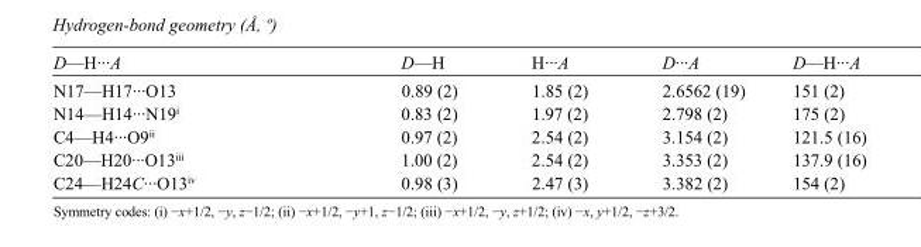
<table><tbody><tr><td>D—H···A</td><td>D—H</td><td>H···A</td><td>D···A</td><td>D—H···A</td></tr><tr><td>N17—H17···O13</td><td>0.89 (2)</td><td>1.85 (2)</td><td>2.6562 (19)</td><td>151 (2)</td></tr><tr><td>N14—H14···N19<sup>i</sup></td><td>0.83 (2)</td><td>1.97 (2)</td><td>2.798 (2)</td><td>175 (2)</td></tr><tr><td>C4—H4···O9<sup>ii</sup></td><td>0.97 (2)</td><td>2.54 (2)</td><td>3.154 (2)</td><td>121.5 (16)</td></tr><tr><td>C20—H20···O13<sup>iii</sup></td><td>1.00 (2)</td><td>2.54 (2)</td><td>3.353 (2)</td><td>137.9 (16)</td></tr><tr><td>C24—H24C···O13<sup>iv</sup></td><td>0.98 (3)</td><td>2.47 (3)</td><td>3.382 (2)</td><td>154 (2)</td></tr></tbody></table>